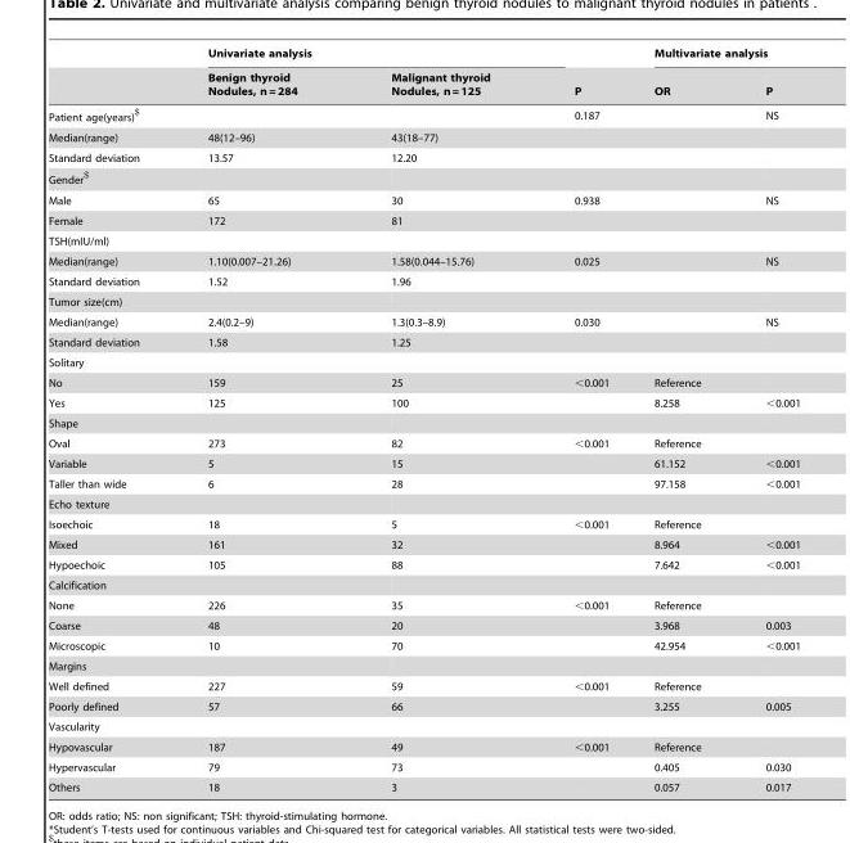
<table><thead><tr><td rowspan="2"></td><td colspan="2">Univariate analysis</td><td rowspan="2">P</td><td colspan="2">Multivariate analysis</td></tr><tr><td>Benign thyroid Nodules, n = 284</td><td>Malignant thyroid Nodules, n = 125</td><td>OR</td><td>P</td></tr></thead><tbody><tr><td>Patient age(years)$</td><td></td><td></td><td>0.187</td><td></td><td>NS</td></tr><tr><td>Median(range)</td><td>48(12–96)</td><td>43(18–77)</td><td></td><td></td><td></td></tr><tr><td>Standard deviation</td><td>13.57</td><td>12.20</td><td></td><td></td><td></td></tr><tr><td colspan="6">Gender$</td></tr><tr><td>Male</td><td>65</td><td>30</td><td>0.938</td><td></td><td>NS</td></tr><tr><td>Female</td><td>172</td><td>81</td><td></td><td></td><td></td></tr><tr><td colspan="6">TSH(mIU/ml)</td></tr><tr><td>Median(range)</td><td>1.10(0.007–21.26)</td><td>1.58(0.044–15.76)</td><td>0.025</td><td></td><td>NS</td></tr><tr><td>Standard deviation</td><td>1.52</td><td>1.96</td><td></td><td></td><td></td></tr><tr><td colspan="6">Tumor size(cm)</td></tr><tr><td>Median(range)</td><td>2.4(0.2–9)</td><td>1.3(0.3–8.9)</td><td>0.030</td><td></td><td>NS</td></tr><tr><td>Standard deviation</td><td>1.58</td><td>1.25</td><td></td><td></td><td></td></tr><tr><td colspan="6">Solitary</td></tr><tr><td>No</td><td>159</td><td>25</td><td>&lt;0.001</td><td>Reference</td><td></td></tr><tr><td>Yes</td><td>125</td><td>100</td><td></td><td>8.258</td><td>&lt;0.001</td></tr><tr><td colspan="6">Shape</td></tr><tr><td>Oval</td><td>273</td><td>82</td><td>&lt;0.001</td><td>Reference</td><td></td></tr><tr><td>Variable</td><td>5</td><td>15</td><td></td><td>61.152</td><td>&lt;0.001</td></tr><tr><td>Taller than wide</td><td>6</td><td>28</td><td></td><td>97.158</td><td>&lt;0.001</td></tr><tr><td colspan="6">Echo texture</td></tr><tr><td>Isoechoic</td><td>18</td><td>5</td><td>&lt;0.001</td><td>Reference</td><td></td></tr><tr><td>Mixed</td><td>161</td><td>32</td><td></td><td>8.964</td><td>&lt;0.001</td></tr><tr><td>Hypoechoic</td><td>105</td><td>88</td><td></td><td>7.642</td><td>&lt;0.001</td></tr><tr><td colspan="6">Calcification</td></tr><tr><td>None</td><td>226</td><td>35</td><td>&lt;0.001</td><td>Reference</td><td></td></tr><tr><td>Coarse</td><td>48</td><td>20</td><td></td><td>3.968</td><td>0.003</td></tr><tr><td>Microscopic</td><td>10</td><td>70</td><td></td><td>42.954</td><td>&lt;0.001</td></tr><tr><td colspan="6">Margins</td></tr><tr><td>Well defined</td><td>227</td><td>59</td><td>&lt;0.001</td><td>Reference</td><td></td></tr><tr><td>Poorly defined</td><td>57</td><td>66</td><td></td><td>3.255</td><td>0.005</td></tr><tr><td colspan="6">Vascularity</td></tr><tr><td>Hypovascular</td><td>187</td><td>49</td><td>&lt;0.001</td><td>Reference</td><td></td></tr><tr><td>Hypervascular</td><td>79</td><td>73</td><td></td><td>0.405</td><td>0.030</td></tr><tr><td>Others</td><td>18</td><td>3</td><td></td><td>0.057</td><td>0.017</td></tr></tbody></table>